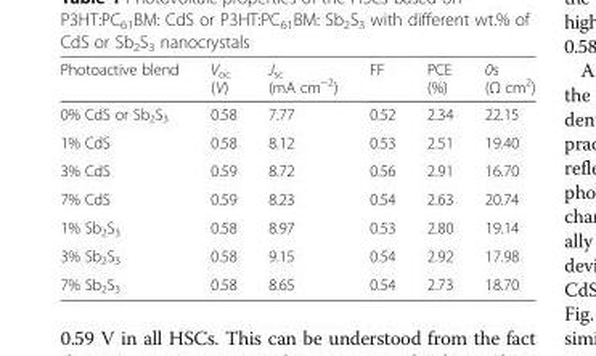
<table><thead><tr><td>Photoactive blend</td><td>V<sub>oc</sub> (V)</td><td>J<sub>sc</sub> (mA cm<sup>−2</sup>)</td><td>FF</td><td>PCE (%)</td><td>0s (Ω cm<sup>2</sup>)</td></tr></thead><tbody><tr><td>0% CdS or Sb<sub>2</sub>S<sub>3</sub></td><td>0.58</td><td>7.77</td><td>0.52</td><td>2.34</td><td>22.15</td></tr><tr><td>1% CdS</td><td>0.58</td><td>8.12</td><td>0.53</td><td>2.51</td><td>19.40</td></tr><tr><td>3% CdS</td><td>0.59</td><td>8.72</td><td>0.56</td><td>2.91</td><td>16.70</td></tr><tr><td>7% CdS</td><td>0.59</td><td>8.23</td><td>0.54</td><td>2.63</td><td>20.74</td></tr><tr><td>1% Sb<sub>2</sub>S<sub>3</sub></td><td>0.58</td><td>8.97</td><td>0.53</td><td>2.80</td><td>19.14</td></tr><tr><td>3% Sb<sub>2</sub>S<sub>3</sub></td><td>0.58</td><td>9.15</td><td>0.54</td><td>2.92</td><td>17.98</td></tr><tr><td>7% Sb<sub>2</sub>S<sub>3</sub></td><td>0.58</td><td>8.65</td><td>0.54</td><td>2.73</td><td>18.70</td></tr></tbody></table>